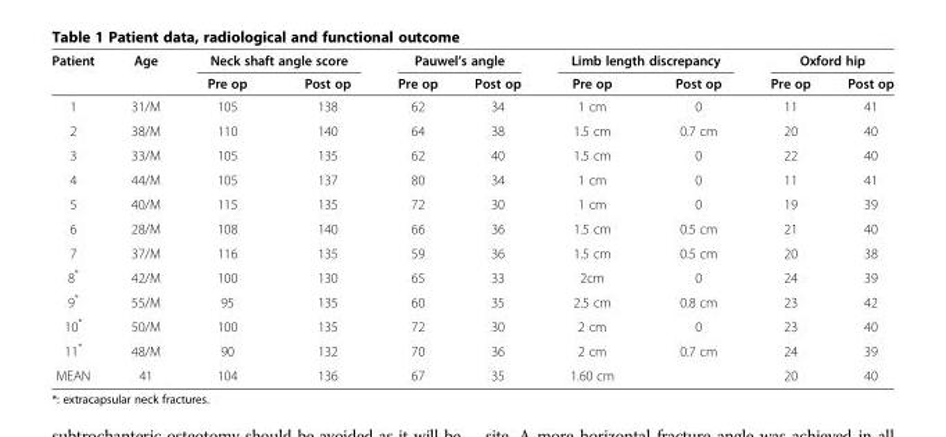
<table><thead><tr><td rowspan="2">Patient</td><td rowspan="2">Age</td><td colspan="2">Neck shaft angle score</td><td colspan="2">Pauwel’s angle</td><td colspan="2">Limb length discrepancy</td><td colspan="2">Oxford hip</td></tr><tr><td>Pre op</td><td>Post op</td><td>Pre op</td><td>Post op</td><td>Pre op</td><td>Post op</td><td>Pre op</td><td>Post op</td></tr></thead><tbody><tr><td>1</td><td>31/M</td><td>105</td><td>138</td><td>62</td><td>34</td><td>1 cm</td><td>0</td><td>11</td><td>41</td></tr><tr><td>2</td><td>38/M</td><td>110</td><td>140</td><td>64</td><td>38</td><td>1.5 cm</td><td>0.7 cm</td><td>20</td><td>40</td></tr><tr><td>3</td><td>33/M</td><td>105</td><td>135</td><td>62</td><td>40</td><td>1.5 cm</td><td>0</td><td>22</td><td>40</td></tr><tr><td>4</td><td>44/M</td><td>105</td><td>137</td><td>80</td><td>34</td><td>1 cm</td><td>0</td><td>11</td><td>41</td></tr><tr><td>5</td><td>40/M</td><td>115</td><td>135</td><td>72</td><td>30</td><td>1 cm</td><td>0</td><td>19</td><td>39</td></tr><tr><td>6</td><td>28/M</td><td>108</td><td>140</td><td>66</td><td>36</td><td>1.5 cm</td><td>0.5 cm</td><td>21</td><td>40</td></tr><tr><td>7</td><td>37/M</td><td>116</td><td>135</td><td>59</td><td>36</td><td>1.5 cm</td><td>0.5 cm</td><td>20</td><td>38</td></tr><tr><td>8*</td><td>42/M</td><td>100</td><td>130</td><td>65</td><td>33</td><td>2cm</td><td>0</td><td>24</td><td>39</td></tr><tr><td>9*</td><td>55/M</td><td>95</td><td>135</td><td>60</td><td>35</td><td>2.5 cm</td><td>0.8 cm</td><td>23</td><td>42</td></tr><tr><td>10*</td><td>50/M</td><td>100</td><td>135</td><td>72</td><td>30</td><td>2 cm</td><td>0</td><td>23</td><td>40</td></tr><tr><td>11*</td><td>48/M</td><td>90</td><td>132</td><td>70</td><td>36</td><td>2 cm</td><td>0.7 cm</td><td>24</td><td>39</td></tr><tr><td>MEAN</td><td>41</td><td>104</td><td>136</td><td>67</td><td>35</td><td>1.60 cm</td><td></td><td>20</td><td>40</td></tr></tbody></table>